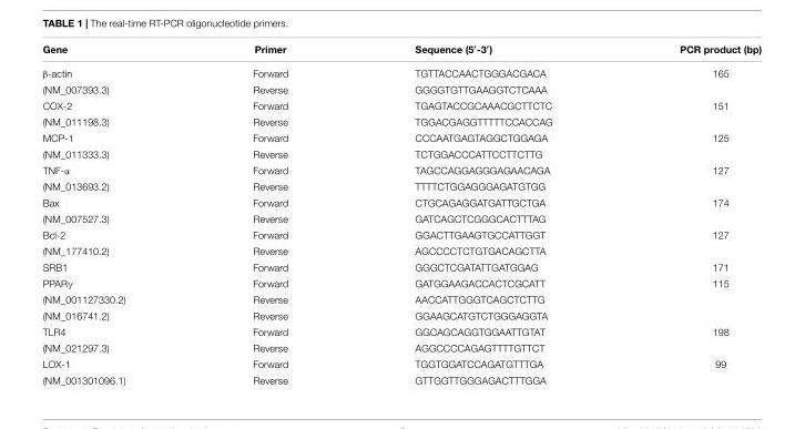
<table><thead><tr><td>Gene</td><td>Primer</td><td>Sequence (5<sup>′</sup>-3<sup>′</sup>)</td><td>PCR product (bp)</td></tr></thead><tbody><tr><td>β-actin</td><td>Forward</td><td>TGTTACCAACTGGGACGACA</td><td>165</td></tr><tr><td>(NM_007393.3)</td><td>Reverse</td><td>GGGGTGTTGAAGGTCTCAAA</td><td></td></tr><tr><td>COX-2</td><td>Forward</td><td>TGAGTACCGCAAACGCTTCTC</td><td>151</td></tr><tr><td>(NM_011198.3)</td><td>Reverse</td><td>TGGACGAGGTTTTTCCACCAG</td><td></td></tr><tr><td>MCP-1</td><td>Forward</td><td>CCCAATGAGTAGGCTGGAGA</td><td>125</td></tr><tr><td>(NM_011333.3)</td><td>Reverse</td><td>TCTGGACCCATTCCTTCTTG</td><td></td></tr><tr><td>TNF-α</td><td>Forward</td><td>TAGCCAGGAGGGAGAACAGA</td><td>127</td></tr><tr><td>(NM_013693.2)</td><td>Reverse</td><td>TTTTCTGGAGGGAGATGTGG</td><td></td></tr><tr><td>Bax</td><td>Forward</td><td>CTGCAGAGGATGATTGCTGA</td><td>174</td></tr><tr><td>(NM_007527.3)</td><td>Reverse</td><td>GATCAGCTCGGGCACTTTAG</td><td></td></tr><tr><td>Bcl-2</td><td>Forward</td><td>GGACTTGAAGTGCCATTGGT</td><td>127</td></tr><tr><td>(NM_177410.2)</td><td>Reverse</td><td>AGCCCCTCTGTGACAGCTTA</td><td></td></tr><tr><td>SRB1</td><td>Forward</td><td>GGGCTCGATATTGATGGAG</td><td>171</td></tr><tr><td>PPARγ</td><td>Forward</td><td>GATGGAAGACCACTCGCATT</td><td>115</td></tr><tr><td>(NM_001127330.2)</td><td>Reverse</td><td>AACCATTGGGTCAGCTCTTG</td><td></td></tr><tr><td>(NM_016741.2)</td><td>Reverse</td><td>GGAAGCATGTCTGGGAGGTA</td><td></td></tr><tr><td>TLR4</td><td>Forward</td><td>GGCAGCAGGTGGAATTGTAT</td><td>198</td></tr><tr><td>(NM_021297.3)</td><td>Reverse</td><td>AGGCCCCAGAGTTTTGTTCT</td><td></td></tr><tr><td>LOX-1</td><td>Forward</td><td>TGGTGGATCCAGATGTTTGA</td><td>99</td></tr><tr><td>(NM_001301096.1)</td><td>Reverse</td><td>GTTGGTTGGGAGACTTTGGA</td><td></td></tr></tbody></table>